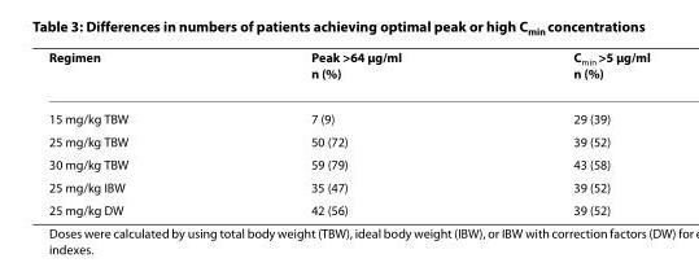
<table><thead><tr><td>Regimen</td><td>Peak &gt;64 μg/ml n (%)</td><td>C<sub>min</sub> &gt;5 μg/ml n (%)</td></tr></thead><tbody><tr><td>15 mg/kg TBW</td><td>7 (9)</td><td>29 (39)</td></tr><tr><td>25 mg/kg TBW</td><td>50 (72)</td><td>39 (52)</td></tr><tr><td>30 mg/kg TBW</td><td>59 (79)</td><td>43 (58)</td></tr><tr><td>25 mg/kg IBW</td><td>35 (47)</td><td>39 (52)</td></tr><tr><td>25 mg/kg DW</td><td>42 (56)</td><td>39 (52)</td></tr></tbody></table>